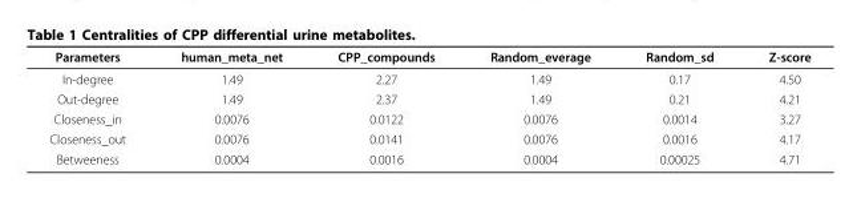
<table><thead><tr><td>Parameters</td><td>human_meta_net</td><td>CPP_compounds</td><td>Random_everage</td><td>Random_sd</td><td>Z-score</td></tr></thead><tbody><tr><td>In-degree</td><td>1.49</td><td>2.27</td><td>1.49</td><td>0.17</td><td>4.50</td></tr><tr><td>Out-degree</td><td>1.49</td><td>2.37</td><td>1.49</td><td>0.21</td><td>4.21</td></tr><tr><td>Closeness_in</td><td>0.0076</td><td>0.0122</td><td>0.0076</td><td>0.0014</td><td>3.27</td></tr><tr><td>Closeness_out</td><td>0.0076</td><td>0.0141</td><td>0.0076</td><td>0.0016</td><td>4.17</td></tr><tr><td>Betweeness</td><td>0.0004</td><td>0.0016</td><td>0.0004</td><td>0.00025</td><td>4.71</td></tr></tbody></table>